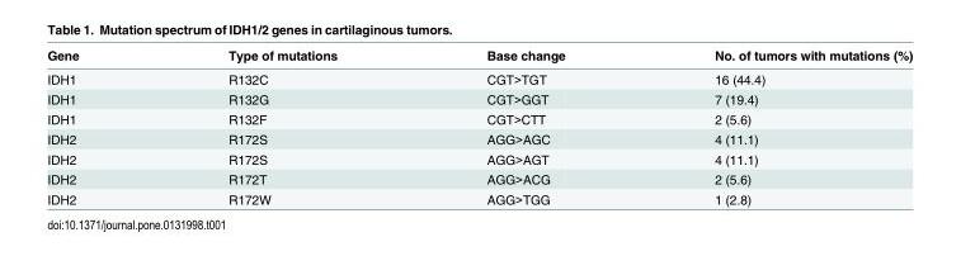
<table><thead><tr><td>Gene</td><td>Type of mutations</td><td>Base change</td><td>No. of tumors with mutations (%)</td></tr></thead><tbody><tr><td>IDH1</td><td>R132C</td><td>CGT&gt;TGT</td><td>16 (44.4)</td></tr><tr><td>IDH1</td><td>R132G</td><td>CGT&gt;GGT</td><td>7 (19.4)</td></tr><tr><td>IDH1</td><td>R132F</td><td>CGT&gt;CTT</td><td>2 (5.6)</td></tr><tr><td>IDH2</td><td>R172S</td><td>AGG&gt;AGC</td><td>4 (11.1)</td></tr><tr><td>IDH2</td><td>R172S</td><td>AGG&gt;AGT</td><td>4 (11.1)</td></tr><tr><td>IDH2</td><td>R172T</td><td>AGG&gt;ACG</td><td>2 (5.6)</td></tr><tr><td>IDH2</td><td>R172W</td><td>AGG&gt;TGG</td><td>1 (2.8)</td></tr></tbody></table>